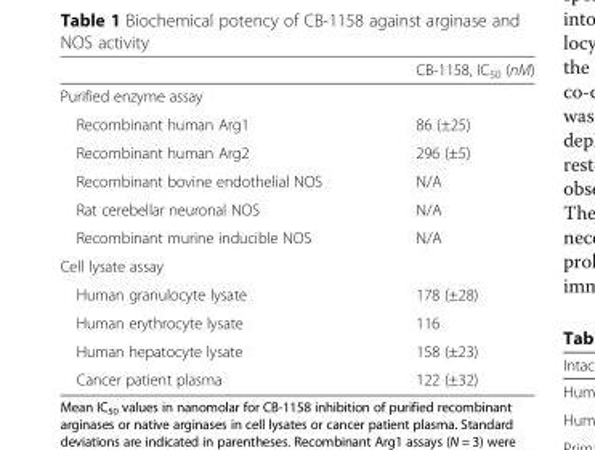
<table><thead><tr><td></td><td>CB-1158, IC<sub>50</sub> (nM)</td></tr></thead><tbody><tr><td colspan="2">Purified enzyme assay</td></tr><tr><td>Recombinant human Arg1</td><td>86 (±25)</td></tr><tr><td>Recombinant human Arg2</td><td>296 (±5)</td></tr><tr><td>Recombinant bovine endothelial NOS</td><td>N/A</td></tr><tr><td>Rat cerebellar neuronal NOS</td><td>N/A</td></tr><tr><td>Recombinant murine inducible NOS</td><td>N/A</td></tr><tr><td colspan="2">Cell lysate assay</td></tr><tr><td>Human granulocyte lysate</td><td>178 (±28)</td></tr><tr><td>Human erythrocyte lysate</td><td>116</td></tr><tr><td>Human hepatocyte lysate</td><td>158 (±23)</td></tr><tr><td>Cancer patient plasma</td><td>122 (±32)</td></tr></tbody></table>